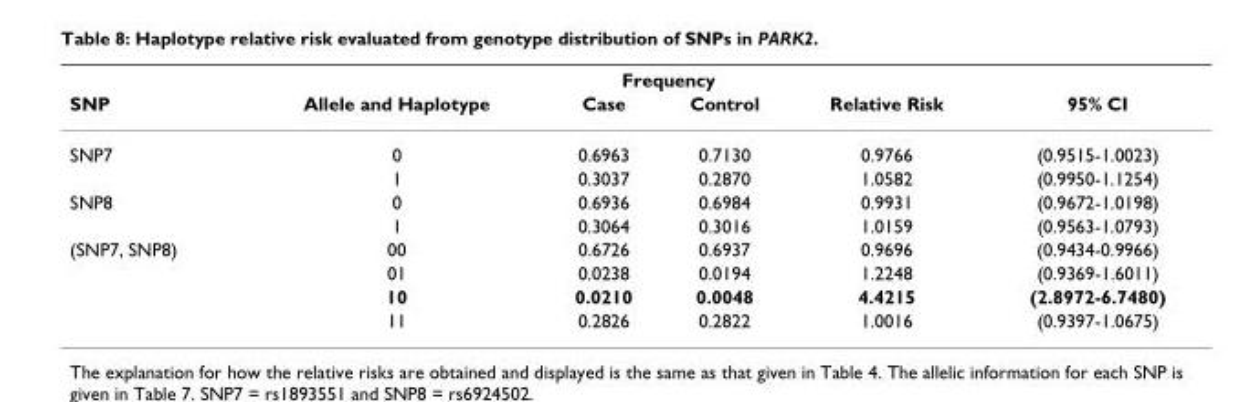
<table><thead><tr><td rowspan="2">SNP</td><td rowspan="2">Allele and Haplotype</td><td colspan="2">Frequency</td><td rowspan="2">Relative Risk</td><td rowspan="2">95% CI</td></tr><tr><td>Case</td><td>Control</td></tr></thead><tbody><tr><td rowspan="2">SNP7</td><td>0</td><td>0.6963</td><td>0.7130</td><td>0.9766</td><td>(0.9515-1.0023)</td></tr><tr><td>1</td><td>0.3037</td><td>0.2870</td><td>1.0582</td><td>(0.9950-1.1254)</td></tr><tr><td rowspan="2">SNP8</td><td>0</td><td>0.6936</td><td>0.6984</td><td>0.9931</td><td>(0.9672-1.0198)</td></tr><tr><td>1</td><td>0.3064</td><td>0.3016</td><td>1.0159</td><td>(0.9563-1.0793)</td></tr><tr><td rowspan="4">(SNP7, SNP8)</td><td>00</td><td>0.6726</td><td>0.6937</td><td>0.9696</td><td>(0.9434-0.9966)</td></tr><tr><td>01</td><td>0.0238</td><td>0.0194</td><td>1.2248</td><td>(0.9369-1.6011)</td></tr><tr><td>10</td><td>0.0210</td><td>0.0048</td><td>4.4215</td><td>(2.8972-6.7480)</td></tr><tr><td>11</td><td>0.2826</td><td>0.2822</td><td>1.0016</td><td>(0.9397-1.0675)</td></tr></tbody></table>